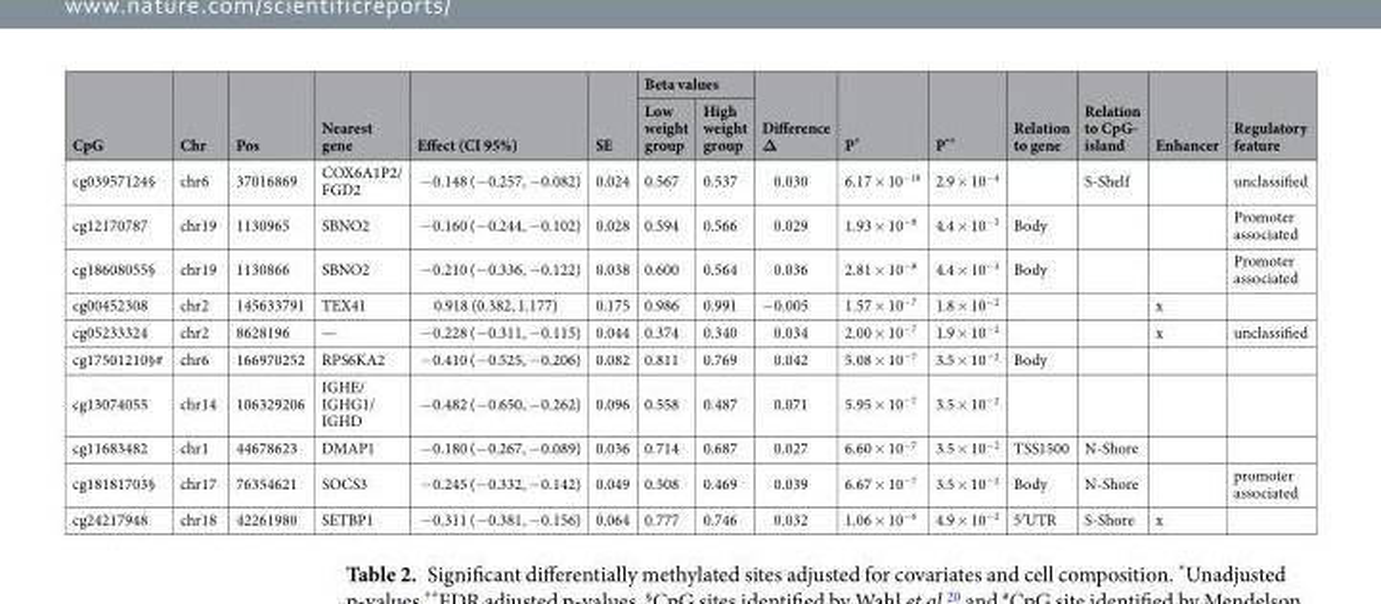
<table><thead><tr><td rowspan="2">CpG</td><td rowspan="2">Chr</td><td rowspan="2">Pos</td><td rowspan="2">Nearest gene</td><td rowspan="2">Effect (CI 95%)</td><td rowspan="2">SE</td><td colspan="2">Beta values</td><td rowspan="2">Difference Δ</td><td rowspan="2">P*</td><td rowspan="2">P**</td><td rowspan="2">Relation to gene</td><td rowspan="2">Relation to CpG- island</td><td rowspan="2">Enhancer</td><td rowspan="2">Regulatory feature</td></tr><tr><td>Low weight group</td><td>High weight group</td></tr></thead><tbody><tr><td>cg03957124§</td><td>chr6</td><td>37016869</td><td>COX6A1P2/ FGD2</td><td>−0.148 (−0.257, −0.082)</td><td>0.024</td><td>0.567</td><td>0.537</td><td>0.030</td><td>6.17 × 10<sup>−10</sup></td><td>2.9 × 10<sup>−4</sup></td><td></td><td>S-Shelf</td><td></td><td>unclassified</td></tr><tr><td>cg12170787</td><td>chr19</td><td>1130965</td><td>SBNO2</td><td>−0.160 (−0.244, −0.102)</td><td>0.028</td><td>0.594</td><td>0.566</td><td>0.029</td><td>1.93 × 10<sup>−8</sup></td><td>4.4 × 10<sup>−3</sup></td><td>Body</td><td></td><td></td><td>Promoter associated</td></tr><tr><td>cg18608055§</td><td>chr19</td><td>1130866</td><td>SBNO2</td><td>−0.210 (−0.336, −0.122)</td><td>0.038</td><td>0.600</td><td>0.564</td><td>0.036</td><td>2.81 × 10<sup>−8</sup></td><td>4.4 × 10<sup>−3</sup></td><td>Body</td><td></td><td></td><td>Promoter associated</td></tr><tr><td>cg00452308</td><td>chr2</td><td>145633791</td><td>TEX41</td><td>0.918 (0.382, 1.177)</td><td>0.175</td><td>0.986</td><td>0.991</td><td>−0.005</td><td>1.57 × 10<sup>−7</sup></td><td>1.8 × 10<sup>−2</sup></td><td></td><td></td><td>x</td><td></td></tr><tr><td>cg05233324</td><td>chr2</td><td>8628196</td><td>—</td><td>−0.228 (−0.311, −0.115)</td><td>0.044</td><td>0.374</td><td>0.340</td><td>0.034</td><td>2.00 × 10<sup>−7</sup></td><td>1.9 × 10<sup>−2</sup></td><td></td><td></td><td>x</td><td>unclassified</td></tr><tr><td>cg17501210§#</td><td>chr6</td><td>166970252</td><td>RPS6KA2</td><td>−0.410 (−0.525, −0.206)</td><td>0.082</td><td>0.811</td><td>0.769</td><td>0.042</td><td>5.08 × 10<sup>−7</sup></td><td>3.5 × 10<sup>−2</sup></td><td>Body</td><td></td><td></td><td></td></tr><tr><td>cg13074055</td><td>chr14</td><td>106329206</td><td>IGHE/ IGHG1/ IGHD</td><td>−0.482 (−0.650, −0.262)</td><td>0.096</td><td>0.558</td><td>0.487</td><td>0.071</td><td>5.95 × 10<sup>−7</sup></td><td>3.5 × 10<sup>−2</sup></td><td></td><td></td><td></td><td></td></tr><tr><td>cg11683482</td><td>chr1</td><td>44678623</td><td>DMAP1</td><td>−0.180 (−0.267, −0.089)</td><td>0.036</td><td>0.714</td><td>0.687</td><td>0.027</td><td>6.60 × 10<sup>−7</sup></td><td>3.5 × 10<sup>−2</sup></td><td>TSS1500</td><td>N-Shore</td><td></td><td></td></tr><tr><td>cg18181703§</td><td>chr17</td><td>76354621</td><td>SOCS3</td><td>−0.245 (−0.332, −0.142)</td><td>0.049</td><td>0.508</td><td>0.469</td><td>0.039</td><td>6.67 × 10<sup>−7</sup></td><td>3.5 × 10<sup>−2</sup></td><td>Body</td><td>N-Shore</td><td></td><td>promoter associated</td></tr><tr><td>cg24217948</td><td>chr18</td><td>42261980</td><td>SETBP1</td><td>−0.311 (−0.381, −0.156)</td><td>0.064</td><td>0.777</td><td>0.746</td><td>0.032</td><td>1.06 × 10<sup>−6</sup></td><td>4.9 × 10<sup>−2</sup></td><td>5′UTR</td><td>S-Shore</td><td>x</td><td></td></tr></tbody></table>